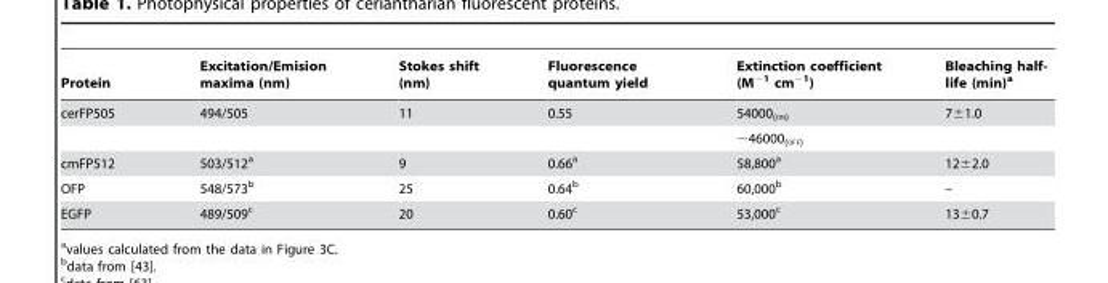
<table><thead><tr><td>Protein</td><td>Excitation/Emision maxima (nm)</td><td>Stokes shift (nm)</td><td>Fluorescence quantum yield</td><td>Extinction coefficient (M<sup>−1</sup> cm<sup>−1</sup>)</td><td>Bleaching half- life (min)<sup>a</sup></td></tr></thead><tbody><tr><td rowspan="2">cerFP505</td><td>494/505</td><td>11</td><td>0.55</td><td>54000<sub>(ON)</sub></td><td>7±1.0</td></tr><tr><td></td><td></td><td></td><td>∼46000<sub>(OFF)</sub></td><td></td></tr><tr><td>cmFP512</td><td>503/512<sup>a</sup></td><td>9</td><td>0.66<sup>a</sup></td><td>58,800<sup>a</sup></td><td>12±2.0</td></tr><tr><td>OFP</td><td>548/573<sup>b</sup></td><td>25</td><td>0.64<sup>b</sup></td><td>60,000<sup>b</sup></td><td>–</td></tr><tr><td>EGFP</td><td>489/509<sup>c</sup></td><td>20</td><td>0.60<sup>c</sup></td><td>53,000<sup>c</sup></td><td>13±0.7</td></tr></tbody></table>